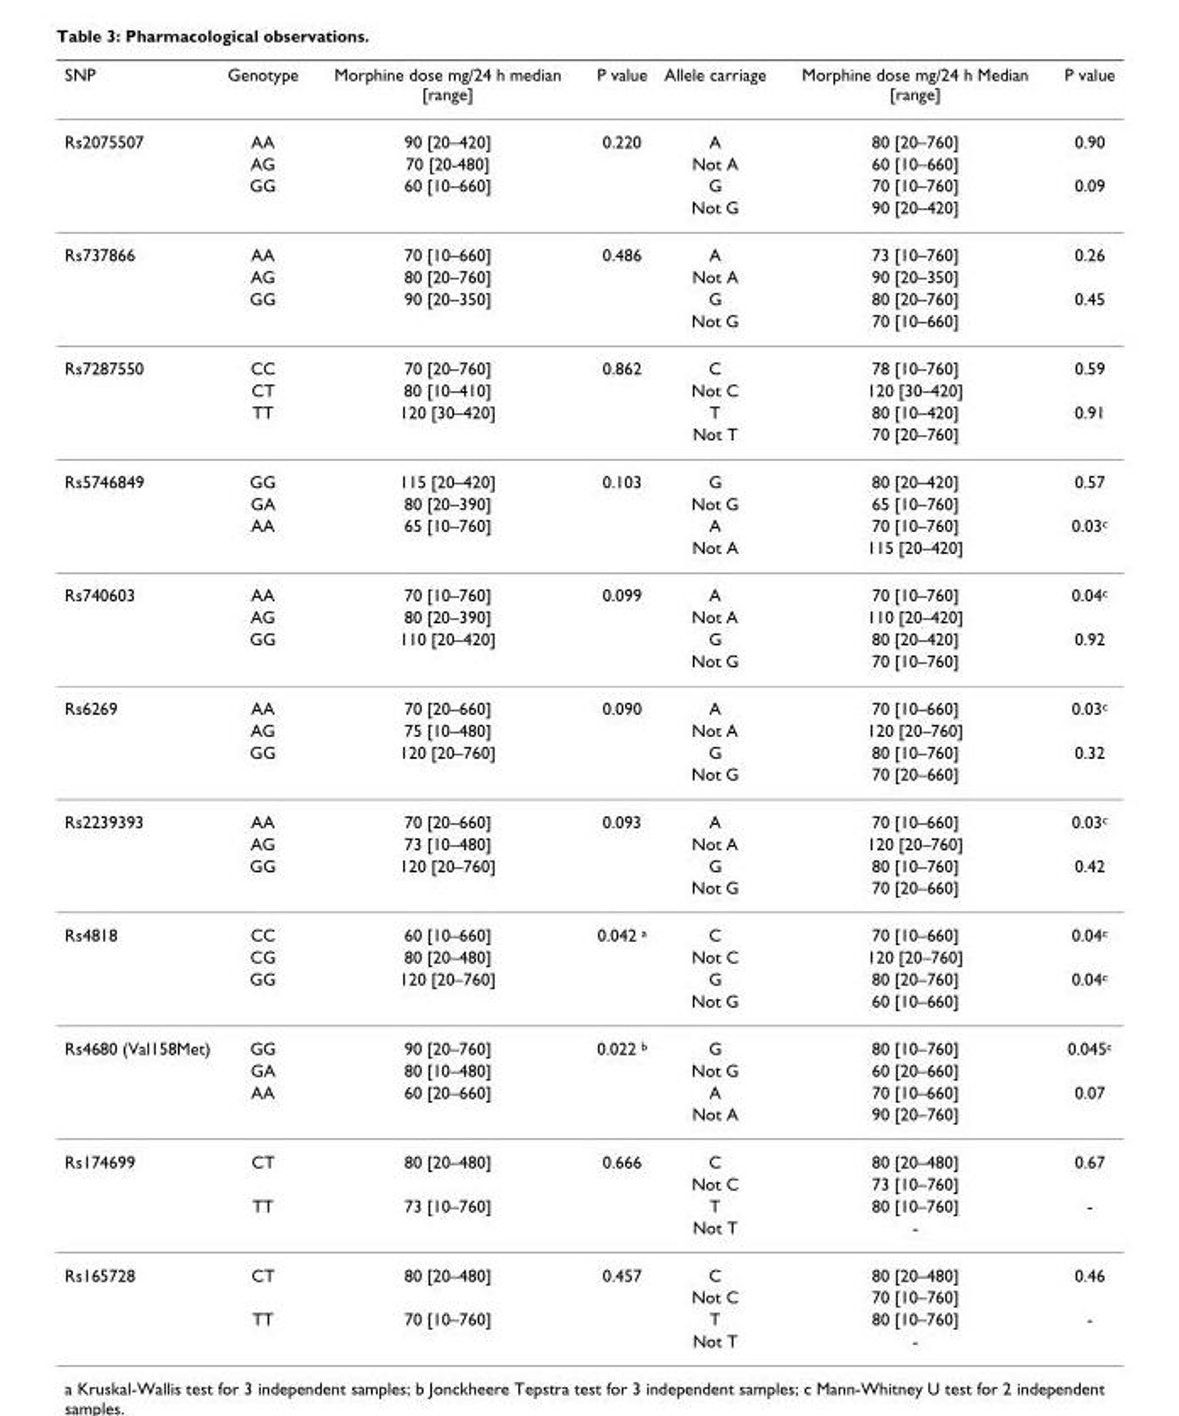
<table><thead><tr><td>SNP</td><td>Genotype</td><td>Morphine dose mg/24 h median [range]</td><td>P value</td><td>Allele carriage</td><td>Morphine dose mg/24 h Median [range]</td><td>P value</td></tr></thead><tbody><tr><td rowspan="4">Rs2075507</td><td>AA</td><td>90 [20–420]</td><td>0.220</td><td>A</td><td>80 [20–760]</td><td>0.90</td></tr><tr><td>AG</td><td>70 [20-480]</td><td></td><td>Not A</td><td>60 [10–660]</td><td></td></tr><tr><td>GG</td><td>60 [10–660]</td><td></td><td>G</td><td>70 [10–760]</td><td>0.09</td></tr><tr><td></td><td></td><td></td><td>Not G</td><td>90 [20–420]</td><td></td></tr><tr><td rowspan="4">Rs737866</td><td>AA</td><td>70 [10–660]</td><td>0.486</td><td>A</td><td>73 [10–760]</td><td>0.26</td></tr><tr><td>AG</td><td>80 [20–760]</td><td></td><td>Not A</td><td>90 [20–350]</td><td></td></tr><tr><td>GG</td><td>90 [20–350]</td><td></td><td>G</td><td>80 [20–760]</td><td>0.45</td></tr><tr><td></td><td></td><td></td><td>Not G</td><td>70 [10–660]</td><td></td></tr><tr><td rowspan="4">Rs7287550</td><td>CC</td><td>70 [20–760]</td><td>0.862</td><td>C</td><td>78 [10–760]</td><td>0.59</td></tr><tr><td>CT</td><td>80 [10–410]</td><td></td><td>Not C</td><td>120 [30–420]</td><td></td></tr><tr><td>TT</td><td>120 [30–420]</td><td></td><td>T</td><td>80 [10–420]</td><td>0.91</td></tr><tr><td></td><td></td><td></td><td>Not T</td><td>70 [20–760]</td><td></td></tr><tr><td rowspan="4">Rs5746849</td><td>GG</td><td>115 [20–420]</td><td>0.103</td><td>G</td><td>80 [20–420]</td><td>0.57</td></tr><tr><td>GA</td><td>80 [20–390]</td><td></td><td>Not G</td><td>65 [10–760]</td><td></td></tr><tr><td>AA</td><td>65 [10–760]</td><td></td><td>A</td><td>70 [10–760]</td><td>0.03<sup>c</sup></td></tr><tr><td></td><td></td><td></td><td>Not A</td><td>115 [20–420]</td><td></td></tr><tr><td rowspan="4">Rs740603</td><td>AA</td><td>70 [10–760]</td><td>0.099</td><td>A</td><td>70 [10–760]</td><td>0.04<sup>c</sup></td></tr><tr><td>AG</td><td>80 [20–390]</td><td></td><td>Not A</td><td>110 [20–420]</td><td></td></tr><tr><td>GG</td><td>110 [20–420]</td><td></td><td>G</td><td>80 [20–420]</td><td>0.92</td></tr><tr><td></td><td></td><td></td><td>Not G</td><td>70 [10–760]</td><td></td></tr><tr><td rowspan="4">Rs6269</td><td>AA</td><td>70 [20–660]</td><td>0.090</td><td>A</td><td>70 [10–660]</td><td>0.03<sup>c</sup></td></tr><tr><td>AG</td><td>75 [10–480]</td><td></td><td>Not A</td><td>120 [20–760]</td><td></td></tr><tr><td>GG</td><td>120 [20–760]</td><td></td><td>G</td><td>80 [10–760]</td><td>0.32</td></tr><tr><td></td><td></td><td></td><td>Not G</td><td>70 [20–660]</td><td></td></tr><tr><td rowspan="4">Rs2239393</td><td>AA</td><td>70 [20–660]</td><td>0.093</td><td>A</td><td>70 [10–660]</td><td>0.03<sup>c</sup></td></tr><tr><td>AG</td><td>73 [10–480]</td><td></td><td>Not A</td><td>120 [20–760]</td><td></td></tr><tr><td>GG</td><td>120 [20–760]</td><td></td><td>G</td><td>80 [10–760]</td><td>0.42</td></tr><tr><td></td><td></td><td></td><td>Not G</td><td>70 [20–660]</td><td></td></tr><tr><td rowspan="4">Rs4818</td><td>CC</td><td>60 [10–660]</td><td>0.042 <sup>a</sup></td><td>C</td><td>70 [10–660]</td><td>0.04<sup>c</sup></td></tr><tr><td>CG</td><td>80 [20–480]</td><td></td><td>Not C</td><td>120 [20–760]</td><td></td></tr><tr><td>GG</td><td>120 [20–760]</td><td></td><td>G</td><td>80 [20–760]</td><td>0.04<sup>c</sup></td></tr><tr><td></td><td></td><td></td><td>Not G</td><td>60 [10–660]</td><td></td></tr><tr><td rowspan="4">Rs4680 (Val158Met)</td><td>GG</td><td>90 [20–760]</td><td>0.022 <sup>b</sup></td><td>G</td><td>80 [10–760]</td><td>0.045<sup>c</sup></td></tr><tr><td>GA</td><td>80 [10–480]</td><td></td><td>Not G</td><td>60 [20–660]</td><td></td></tr><tr><td>AA</td><td>60 [20–660]</td><td></td><td>A</td><td>70 [10–660]</td><td>0.07</td></tr><tr><td></td><td></td><td></td><td>Not A</td><td>90 [20–760]</td><td></td></tr><tr><td rowspan="4">Rs174699</td><td>CT</td><td>80 [20–480]</td><td>0.666</td><td>C</td><td>80 [20–480]</td><td>0.67</td></tr><tr><td></td><td></td><td></td><td>Not C</td><td>73 [10–760]</td><td></td></tr><tr><td>TT</td><td>73 [10–760]</td><td></td><td>T</td><td>80 [10–760]</td><td>-</td></tr><tr><td></td><td></td><td></td><td>Not T</td><td>-</td><td></td></tr><tr><td rowspan="4">Rs165728</td><td>CT</td><td>80 [20–480]</td><td>0.457</td><td>C</td><td>80 [20–480]</td><td>0.46</td></tr><tr><td></td><td></td><td></td><td>Not C</td><td>70 [10–760]</td><td></td></tr><tr><td>TT</td><td>70 [10–760]</td><td></td><td>T</td><td>80 [10–760]</td><td>-</td></tr><tr><td></td><td></td><td></td><td>Not T</td><td>-</td><td></td></tr></tbody></table>